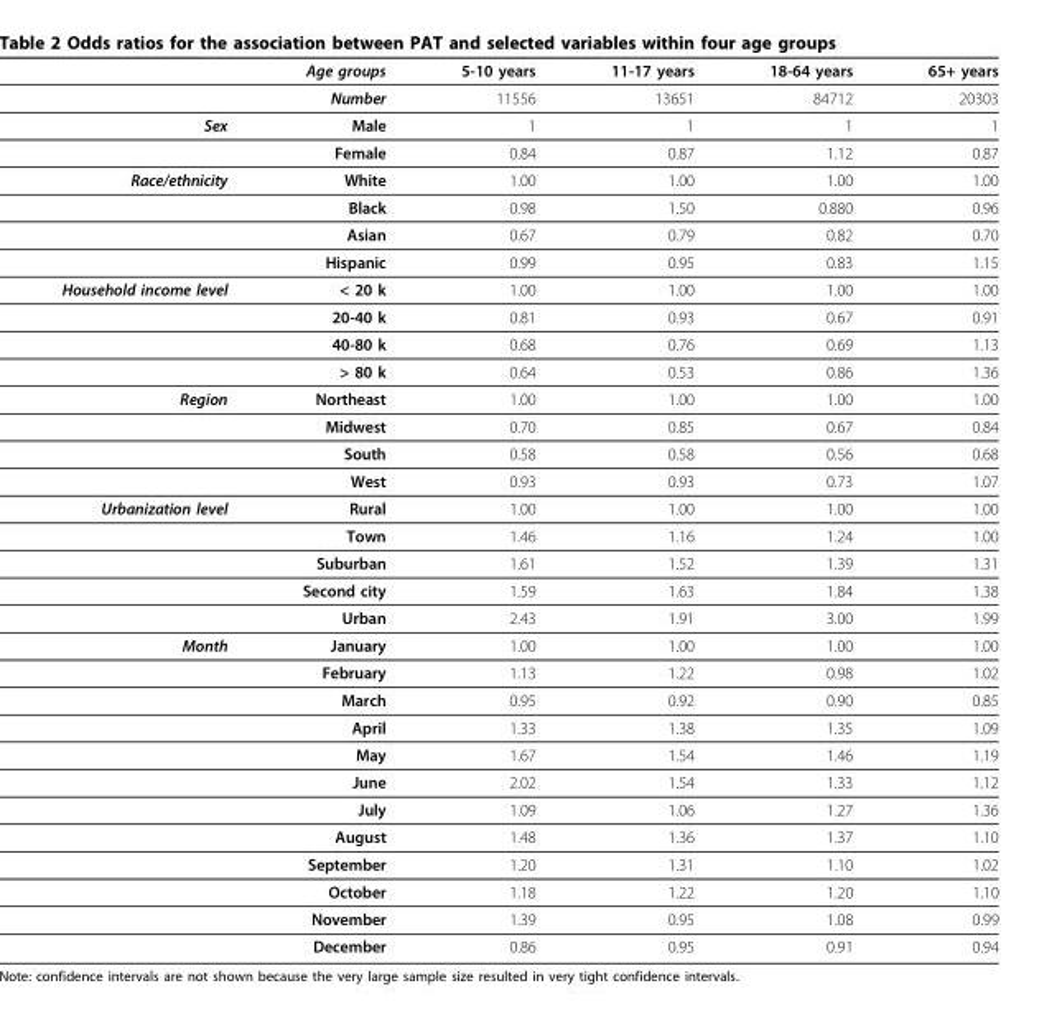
<table><thead><tr><td></td><td>Age groups</td><td>5-10 years</td><td>11-17 years</td><td>18-64 years</td><td>65+ years</td></tr></thead><tbody><tr><td></td><td>Number</td><td>11556</td><td>13651</td><td>84712</td><td>20303</td></tr><tr><td rowspan="2">Sex</td><td>Male</td><td>1</td><td>1</td><td>1</td><td>1</td></tr><tr><td>Female</td><td>0.84</td><td>0.87</td><td>1.12</td><td>0.87</td></tr><tr><td rowspan="4">Race/ethnicity</td><td>White</td><td>1.00</td><td>1.00</td><td>1.00</td><td>1.00</td></tr><tr><td>Black</td><td>0.98</td><td>1.50</td><td>0.880</td><td>0.96</td></tr><tr><td>Asian</td><td>0.67</td><td>0.79</td><td>0.82</td><td>0.70</td></tr><tr><td>Hispanic</td><td>0.99</td><td>0.95</td><td>0.83</td><td>1.15</td></tr><tr><td rowspan="4">Household income level</td><td>&lt; 20 k</td><td>1.00</td><td>1.00</td><td>1.00</td><td>1.00</td></tr><tr><td>20-40 k</td><td>0.81</td><td>0.93</td><td>0.67</td><td>0.91</td></tr><tr><td>40-80 k</td><td>0.68</td><td>0.76</td><td>0.69</td><td>1.13</td></tr><tr><td>&gt; 80 k</td><td>0.64</td><td>0.53</td><td>0.86</td><td>1.36</td></tr><tr><td rowspan="4">Region</td><td>Northeast</td><td>1.00</td><td>1.00</td><td>1.00</td><td>1.00</td></tr><tr><td>Midwest</td><td>0.70</td><td>0.85</td><td>0.67</td><td>0.84</td></tr><tr><td>South</td><td>0.58</td><td>0.58</td><td>0.56</td><td>0.68</td></tr><tr><td>West</td><td>0.93</td><td>0.93</td><td>0.73</td><td>1.07</td></tr><tr><td rowspan="5">Urbanization level</td><td>Rural</td><td>1.00</td><td>1.00</td><td>1.00</td><td>1.00</td></tr><tr><td>Town</td><td>1.46</td><td>1.16</td><td>1.24</td><td>1.00</td></tr><tr><td>Suburban</td><td>1.61</td><td>1.52</td><td>1.39</td><td>1.31</td></tr><tr><td>Second city</td><td>1.59</td><td>1.63</td><td>1.84</td><td>1.38</td></tr><tr><td>Urban</td><td>2.43</td><td>1.91</td><td>3.00</td><td>1.99</td></tr><tr><td rowspan="12">Month</td><td>January</td><td>1.00</td><td>1.00</td><td>1.00</td><td>1.00</td></tr><tr><td>February</td><td>1.13</td><td>1.22</td><td>0.98</td><td>1.02</td></tr><tr><td>March</td><td>0.95</td><td>0.92</td><td>0.90</td><td>0.85</td></tr><tr><td>April</td><td>1.33</td><td>1.38</td><td>1.35</td><td>1.09</td></tr><tr><td>May</td><td>1.67</td><td>1.54</td><td>1.46</td><td>1.19</td></tr><tr><td>June</td><td>2.02</td><td>1.54</td><td>1.33</td><td>1.12</td></tr><tr><td>July</td><td>1.09</td><td>1.06</td><td>1.27</td><td>1.36</td></tr><tr><td>August</td><td>1.48</td><td>1.36</td><td>1.37</td><td>1.10</td></tr><tr><td>September</td><td>1.20</td><td>1.31</td><td>1.10</td><td>1.02</td></tr><tr><td>October</td><td>1.18</td><td>1.22</td><td>1.20</td><td>1.10</td></tr><tr><td>November</td><td>1.39</td><td>0.95</td><td>1.08</td><td>0.99</td></tr><tr><td>December</td><td>0.86</td><td>0.95</td><td>0.91</td><td>0.94</td></tr></tbody></table>